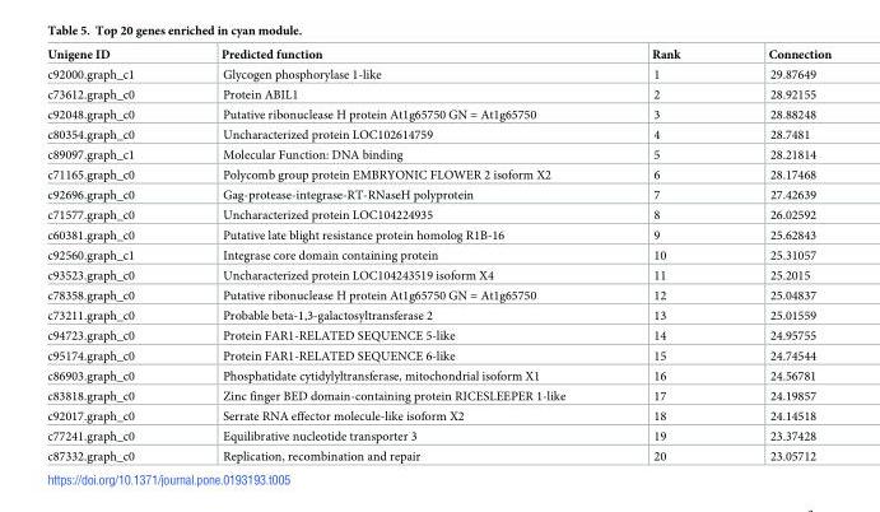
<table><thead><tr><td>Unigene ID</td><td>Predicted function</td><td>Rank</td><td>Connection</td></tr></thead><tbody><tr><td>c92000.graph_c1</td><td>Glycogen phosphorylase 1-like</td><td>1</td><td>29.87649</td></tr><tr><td>c73612.graph_c0</td><td>Protein ABIL1</td><td>2</td><td>28.92155</td></tr><tr><td>c92048.graph_c0</td><td>Putative ribonuclease H protein At1g65750 GN = At1g65750</td><td>3</td><td>28.88248</td></tr><tr><td>c80354.graph_c0</td><td>Uncharacterized protein LOC102614759</td><td>4</td><td>28.7481</td></tr><tr><td>c89097.graph_c1</td><td>Molecular Function: DNA binding</td><td>5</td><td>28.21814</td></tr><tr><td>c71165.graph_c0</td><td>Polycomb group protein EMBRYONIC FLOWER 2 isoform X2</td><td>6</td><td>28.17468</td></tr><tr><td>c92696.graph_c0</td><td>Gag-protease-integrase-RT-RNaseH polyprotein</td><td>7</td><td>27.42639</td></tr><tr><td>c71577.graph_c0</td><td>Uncharacterized protein LOC104224935</td><td>8</td><td>26.02592</td></tr><tr><td>c60381.graph_c0</td><td>Putative late blight resistance protein homolog R1B-16</td><td>9</td><td>25.62843</td></tr><tr><td>c92560.graph_c1</td><td>Integrase core domain containing protein</td><td>10</td><td>25.31057</td></tr><tr><td>c93523.graph_c0</td><td>Uncharacterized protein LOC104243519 isoform X4</td><td>11</td><td>25.2015</td></tr><tr><td>c78358.graph_c0</td><td>Putative ribonuclease H protein At1g65750 GN = At1g65750</td><td>12</td><td>25.04837</td></tr><tr><td>c73211.graph_c0</td><td>Probable beta-1,3-galactosyltransferase 2</td><td>13</td><td>25.01559</td></tr><tr><td>c94723.graph_c0</td><td>Protein FAR1-RELATED SEQUENCE 5-like</td><td>14</td><td>24.95755</td></tr><tr><td>c95174.graph_c0</td><td>Protein FAR1-RELATED SEQUENCE 6-like</td><td>15</td><td>24.74544</td></tr><tr><td>c86903.graph_c0</td><td>Phosphatidate cytidylyltransferase, mitochondrial isoform X1</td><td>16</td><td>24.56781</td></tr><tr><td>c83818.graph_c0</td><td>Zinc finger BED domain-containing protein RICESLEEPER 1-like</td><td>17</td><td>24.19857</td></tr><tr><td>c92017.graph_c0</td><td>Serrate RNA effector molecule-like isoform X2</td><td>18</td><td>24.14518</td></tr><tr><td>c77241.graph_c0</td><td>Equilibrative nucleotide transporter 3</td><td>19</td><td>23.37428</td></tr><tr><td>c87332.graph_c0</td><td>Replication, recombination and repair</td><td>20</td><td>23.05712</td></tr></tbody></table>